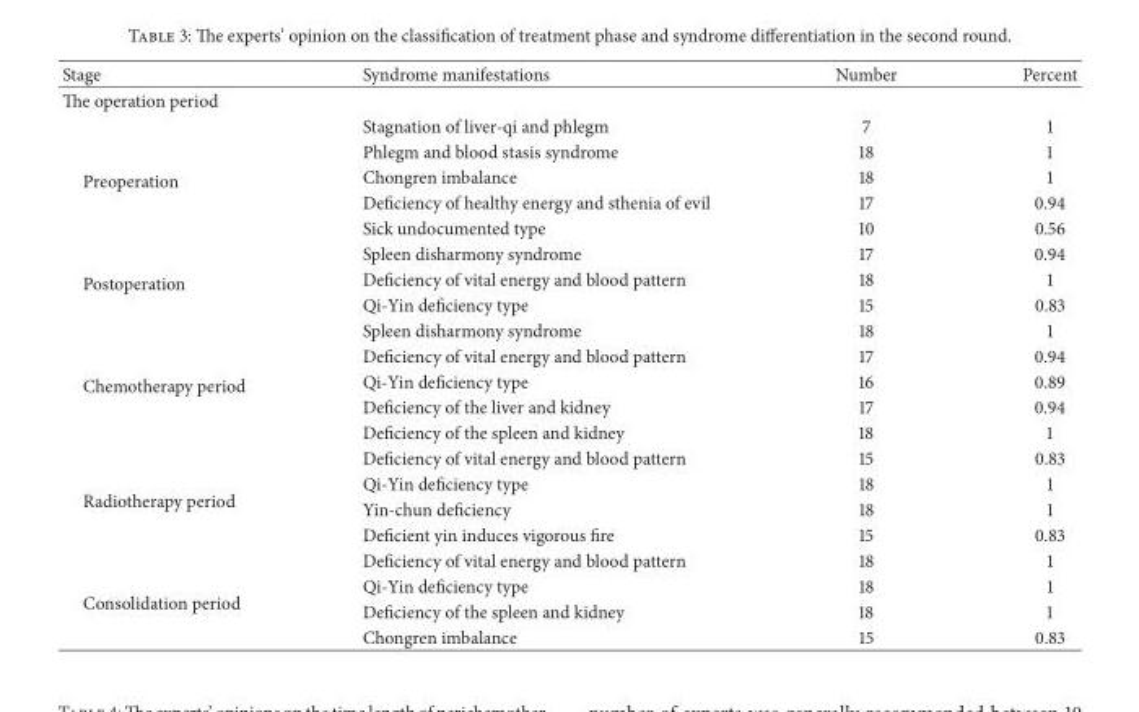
<table><thead><tr><td>Stage</td><td>Syndrome manifestations</td><td>Number</td><td>Percent</td></tr></thead><tbody><tr><td colspan="4">The operation period</td></tr><tr><td rowspan="5">Preoperation</td><td>Stagnation of liver-qi and phlegm</td><td>7</td><td>1</td></tr><tr><td>Phlegm and blood stasis syndrome</td><td>18</td><td>1</td></tr><tr><td>Chongren imbalance</td><td>18</td><td>1</td></tr><tr><td>Deficiency of healthy energy and sthenia of evil</td><td>17</td><td>0.94</td></tr><tr><td>Sick undocumented type</td><td>10</td><td>0.56</td></tr><tr><td rowspan="3">Postoperation</td><td>Spleen disharmony syndrome</td><td>17</td><td>0.94</td></tr><tr><td>Deficiency of vital energy and blood pattern</td><td>18</td><td>1</td></tr><tr><td>Qi-Yin deficiency type</td><td>15</td><td>0.83</td></tr><tr><td rowspan="5">Chemotherapy period</td><td>Spleen disharmony syndrome</td><td>18</td><td>1</td></tr><tr><td>Deficiency of vital energy and blood pattern</td><td>17</td><td>0.94</td></tr><tr><td>Qi-Yin deficiency type</td><td>16</td><td>0.89</td></tr><tr><td>Deficiency of the liver and kidney</td><td>17</td><td>0.94</td></tr><tr><td>Deficiency of the spleen and kidney</td><td>18</td><td>1</td></tr><tr><td rowspan="4">Radiotherapy period</td><td>Deficiency of vital energy and blood pattern</td><td>15</td><td>0.83</td></tr><tr><td>Qi-Yin deficiency type</td><td>18</td><td>1</td></tr><tr><td>Yin-chun deficiency</td><td>18</td><td>1</td></tr><tr><td>Deficient yin induces vigorous fire</td><td>15</td><td>0.83</td></tr><tr><td rowspan="4">Consolidation period</td><td>Deficiency of vital energy and blood pattern</td><td>18</td><td>1</td></tr><tr><td>Qi-Yin deficiency type</td><td>18</td><td>1</td></tr><tr><td>Deficiency of the spleen and kidney</td><td>18</td><td>1</td></tr><tr><td>Chongren imbalance</td><td>15</td><td>0.83</td></tr></tbody></table>